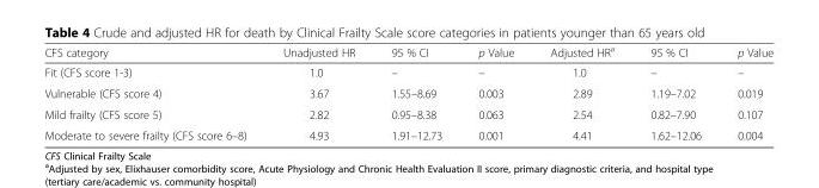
<table><thead><tr><td>CFS category</td><td>Unadjusted HR</td><td>95 % CI</td><td>p Value</td><td>Adjusted HR<sup>a</sup></td><td>95 % CI</td><td>p Value</td></tr></thead><tbody><tr><td>Fit (CFS score 1-3)</td><td>1.0</td><td>–</td><td>–</td><td>1.0</td><td>–</td><td>–</td></tr><tr><td>Vulnerable (CFS score 4)</td><td>3.67</td><td>1.55–8.69</td><td>0.003</td><td>2.89</td><td>1.19–7.02</td><td>0.019</td></tr><tr><td>Mild frailty (CFS score 5)</td><td>2.82</td><td>0.95–8.38</td><td>0.063</td><td>2.54</td><td>0.82–7.90</td><td>0.107</td></tr><tr><td>Moderate to severe frailty (CFS score 6–8)</td><td>4.93</td><td>1.91–12.73</td><td>0.001</td><td>4.41</td><td>1.62–12.06</td><td>0.004</td></tr></tbody></table>